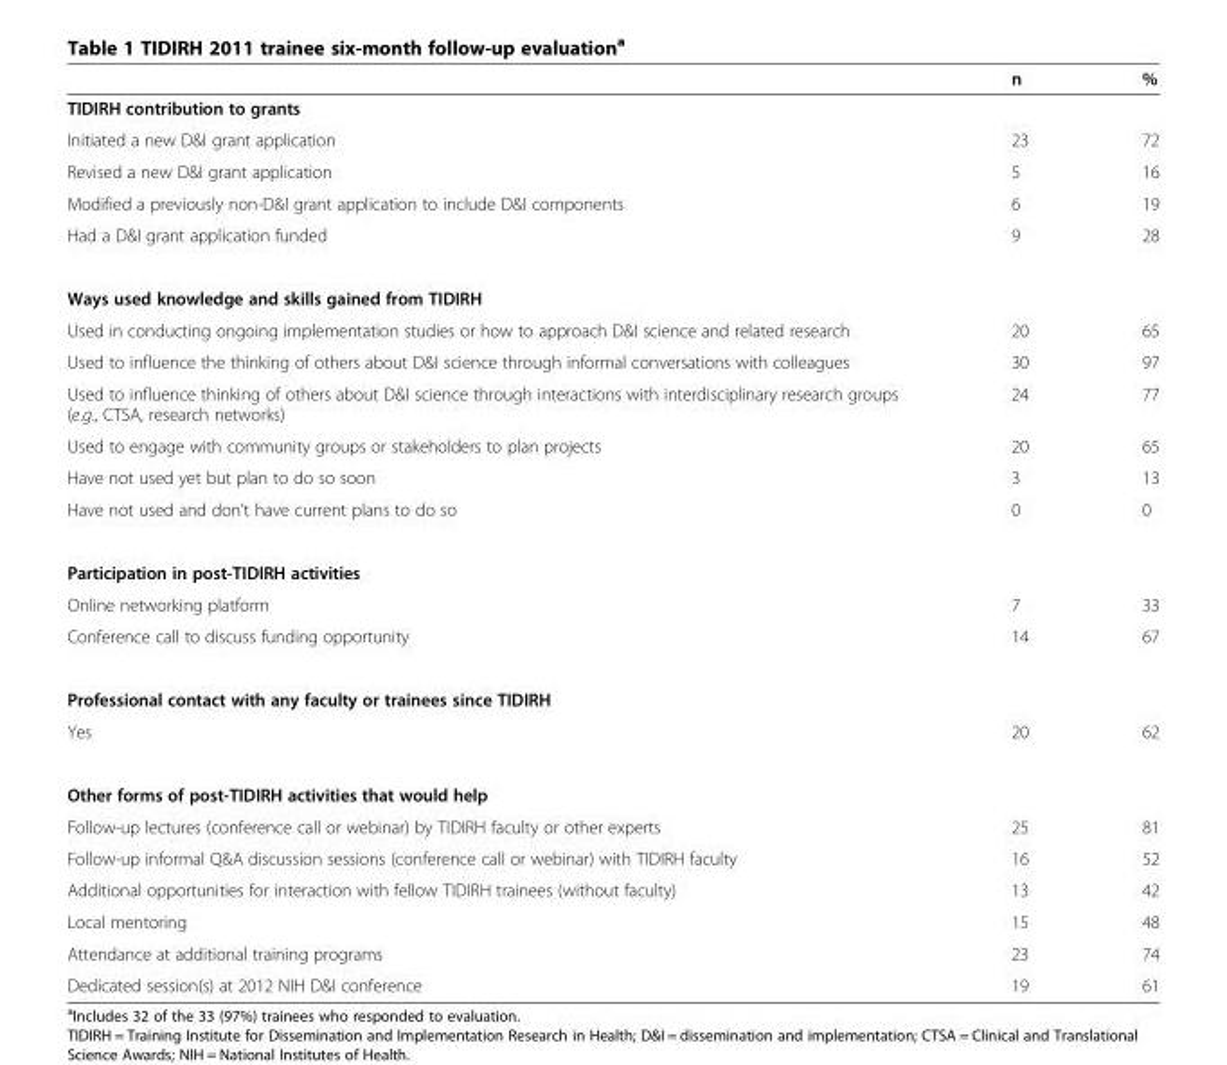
<table><thead><tr><td></td><td>n</td><td>%</td></tr></thead><tbody><tr><td colspan="3">TIDIRH contribution to grants</td></tr><tr><td>Initiated a new D&amp;I grant application</td><td>23</td><td>72</td></tr><tr><td>Revised a new D&amp;I grant application</td><td>5</td><td>16</td></tr><tr><td>Modified a previously non-D&amp;I grant application to include D&amp;I components</td><td>6</td><td>19</td></tr><tr><td>Had a D&amp;I grant application funded</td><td>9</td><td>28</td></tr><tr><td colspan="3">Ways used knowledge and skills gained from TIDIRH</td></tr><tr><td>Used in conducting ongoing implementation studies or how to approach D&amp;I science and related research</td><td>20</td><td>65</td></tr><tr><td>Used to influence the thinking of others about D&amp;I science through informal conversations with colleagues</td><td>30</td><td>97</td></tr><tr><td>Used to influence thinking of others about D&amp;I science through interactions with interdisciplinary research groups (e.g., CTSA, research networks)</td><td>24</td><td>77</td></tr><tr><td>Used to engage with community groups or stakeholders to plan projects</td><td>20</td><td>65</td></tr><tr><td>Have not used yet but plan to do so soon</td><td>3</td><td>13</td></tr><tr><td>Have not used and don’t have current plans to do so</td><td>0</td><td>0</td></tr><tr><td colspan="3">Participation in post-TIDIRH activities</td></tr><tr><td>Online networking platform</td><td>7</td><td>33</td></tr><tr><td>Conference call to discuss funding opportunity</td><td>14</td><td>67</td></tr><tr><td colspan="3">Professional contact with any faculty or trainees since TIDIRH</td></tr><tr><td>Yes</td><td>20</td><td>62</td></tr><tr><td colspan="3">Other forms of post-TIDIRH activities that would help</td></tr><tr><td>Follow-up lectures (conference call or webinar) by TIDIRH faculty or other experts</td><td>25</td><td>81</td></tr><tr><td>Follow-up informal Q&amp;A discussion sessions (conference call or webinar) with TIDIRH faculty</td><td>16</td><td>52</td></tr><tr><td>Additional opportunities for interaction with fellow TIDIRH trainees (without faculty)</td><td>13</td><td>42</td></tr><tr><td>Local mentoring</td><td>15</td><td>48</td></tr><tr><td>Attendance at additional training programs</td><td>23</td><td>74</td></tr><tr><td>Dedicated session(s) at 2012 NIH D&amp;I conference</td><td>19</td><td>61</td></tr></tbody></table>